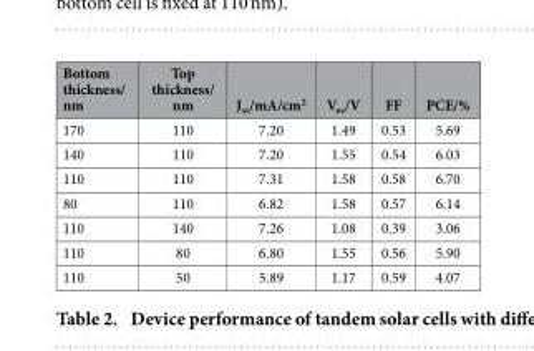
<table><thead><tr><td>Bottom thickness/ nm</td><td>Top thickness/ nm</td><td>J<sub>sc</sub>/mA/cm<sup>2</sup></td><td>V<sub>oc</sub>/V</td><td>FF</td><td>PCE/%</td></tr></thead><tbody><tr><td>170</td><td>110</td><td>7.20</td><td>1.49</td><td>0.53</td><td>5.69</td></tr><tr><td>140</td><td>110</td><td>7.20</td><td>1.55</td><td>0.54</td><td>6.03</td></tr><tr><td>110</td><td>110</td><td>7.31</td><td>1.58</td><td>0.58</td><td>6.70</td></tr><tr><td>80</td><td>110</td><td>6.82</td><td>1.58</td><td>0.57</td><td>6.14</td></tr><tr><td>110</td><td>140</td><td>7.26</td><td>1.08</td><td>0.39</td><td>3.06</td></tr><tr><td>110</td><td>80</td><td>6.80</td><td>1.55</td><td>0.56</td><td>5.90</td></tr><tr><td>110</td><td>50</td><td>5.89</td><td>1.17</td><td>0.59</td><td>4.07</td></tr></tbody></table>